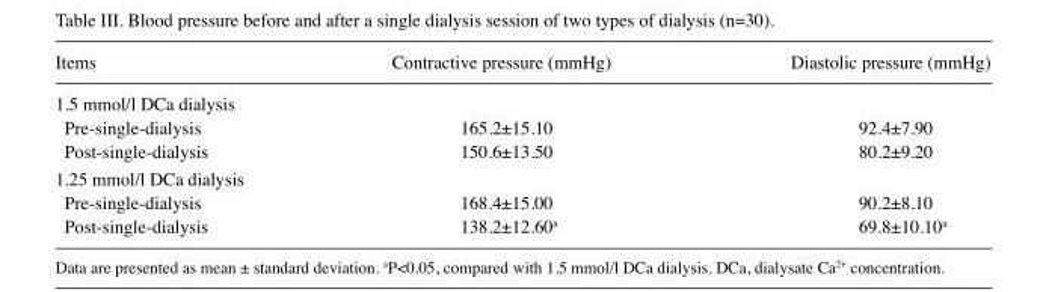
<table><thead><tr><td>Items</td><td>Contractive pressure (mmHg)</td><td>Diastolic pressure (mmHg)</td></tr></thead><tbody><tr><td colspan="3">1.5 mmol/l DCa dialysis</td></tr><tr><td>Pre-single-dialysis</td><td>165.2±15.10</td><td>92.4±7.90</td></tr><tr><td>Post-single-dialysis</td><td>150.6±13.50</td><td>80.2±9.20</td></tr><tr><td colspan="3">1.25 mmol/l DCa dialysis</td></tr><tr><td>Pre-single-dialysis</td><td>168.4±15.00</td><td>90.2±8.10</td></tr><tr><td>Post-single-dialysis</td><td>138.2±12.60<sup>a</sup></td><td>69.8±10.10<sup>a</sup></td></tr></tbody></table>